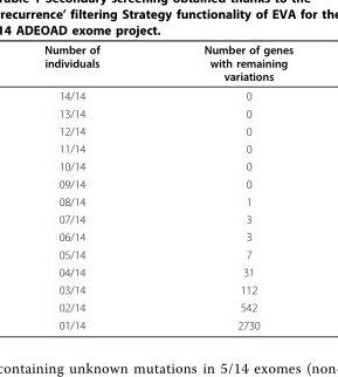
<table><thead><tr><td>Number of individuals</td><td>Number of genes with remaining variations</td></tr></thead><tbody><tr><td>14/14</td><td>0</td></tr><tr><td>13/14</td><td>0</td></tr><tr><td>12/14</td><td>0</td></tr><tr><td>11/14</td><td>0</td></tr><tr><td>10/14</td><td>0</td></tr><tr><td>09/14</td><td>0</td></tr><tr><td>08/14</td><td>1</td></tr><tr><td>07/14</td><td>3</td></tr><tr><td>06/14</td><td>3</td></tr><tr><td>05/14</td><td>7</td></tr><tr><td>04/14</td><td>31</td></tr><tr><td>03/14</td><td>112</td></tr><tr><td>02/14</td><td>542</td></tr><tr><td>01/14</td><td>2730</td></tr></tbody></table>